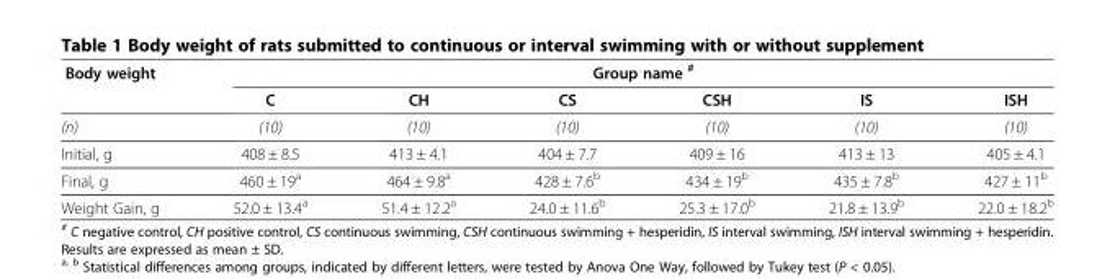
<table><thead><tr><td rowspan="2">Body weight</td><td colspan="6">Group name <sup>#</sup></td></tr><tr><td>C</td><td>CH</td><td>CS</td><td>CSH</td><td>IS</td><td>ISH</td></tr></thead><tbody><tr><td>(n)</td><td>(10)</td><td>(10)</td><td>(10)</td><td>(10)</td><td>(10)</td><td>(10)</td></tr><tr><td>Initial, g</td><td>408 ± 8.5</td><td>413 ± 4.1</td><td>404 ± 7.7</td><td>409 ± 16</td><td>413 ± 13</td><td>405 ± 4.1</td></tr><tr><td>Final, g</td><td>460 ± 19<sup>a</sup></td><td>464 ± 9.8<sup>a</sup></td><td>428 ± 7.6<sup>b</sup></td><td>434 ± 19<sup>b</sup></td><td>435 ± 7.8<sup>b</sup></td><td>427 ± 11<sup>b</sup></td></tr><tr><td>Weight Gain, g</td><td>52.0 ± 13.4<sup>a</sup></td><td>51.4 ± 12.2<sup>a</sup></td><td>24.0 ± 11.6<sup>b</sup></td><td>25.3 ± 17.0<sup>b</sup></td><td>21.8 ± 13.9<sup>b</sup></td><td>22.0 ± 18.2<sup>b</sup></td></tr></tbody></table>